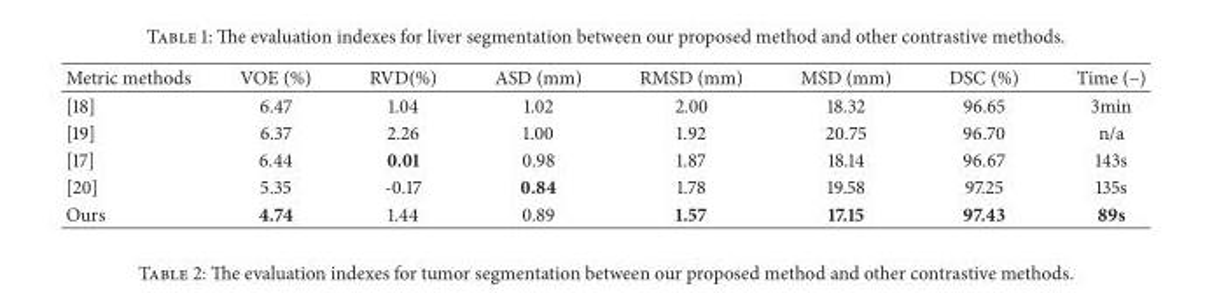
<table><thead><tr><td>Metric methods</td><td>VOE (%)</td><td>RVD(%)</td><td>ASD (mm)</td><td>RMSD (mm)</td><td>MSD (mm)</td><td>DSC (%)</td><td>Time (–)</td></tr></thead><tbody><tr><td>[18]</td><td>6.47</td><td>1.04</td><td>1.02</td><td>2.00</td><td>18.32</td><td>96.65</td><td>3min</td></tr><tr><td>[19]</td><td>6.37</td><td>2.26</td><td>1.00</td><td>1.92</td><td>20.75</td><td>96.70</td><td>n/a</td></tr><tr><td>[17]</td><td>6.44</td><td>0.01</td><td>0.98</td><td>1.87</td><td>18.14</td><td>96.67</td><td>143s</td></tr><tr><td>[20]</td><td>5.35</td><td>-0.17</td><td>0.84</td><td>1.78</td><td>19.58</td><td>97.25</td><td>135s</td></tr><tr><td>Ours</td><td>4.74</td><td>1.44</td><td>0.89</td><td>1.57</td><td>17.15</td><td>97.43</td><td>89s</td></tr></tbody></table>